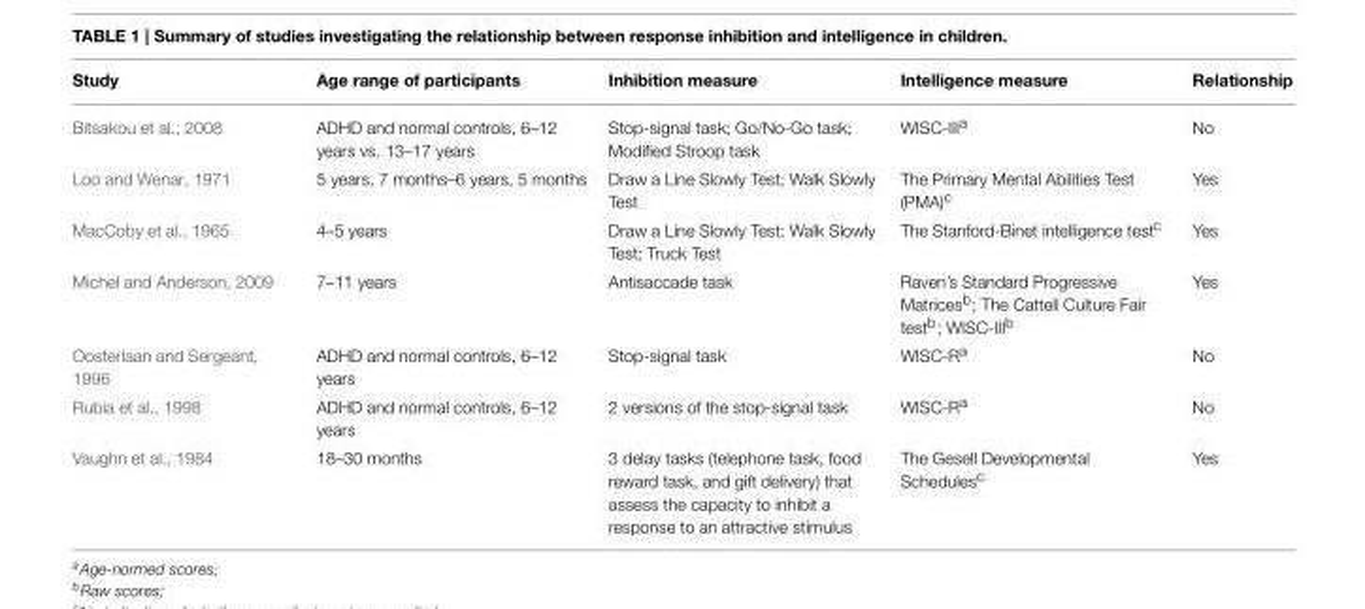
<table><thead><tr><td>Study</td><td>Age range of participants</td><td>Inhibition measure</td><td>Intelligence measure</td><td>Relationship</td></tr></thead><tbody><tr><td>Bitsakou et al., 2008</td><td>ADHD and normal controls, 6–12 years vs. 13–17 years</td><td>Stop-signal task; Go/No-Go task; Modified Stroop task</td><td>WISC-III<sup>a</sup></td><td>No</td></tr><tr><td>Loo and Wenar, 1971</td><td>5 years, 7 months–6 years, 5 months</td><td>Draw a Line Slowly Test; Walk Slowly Test</td><td>The Primary Mental Abilities Test (PMA)<sup>c</sup></td><td>Yes</td></tr><tr><td>MacCoby et al., 1965</td><td>4–5 years</td><td>Draw a Line Slowly Test; Walk Slowly Test; Truck Test</td><td>The Stanford-Binet intelligence test<sup>c</sup></td><td>Yes</td></tr><tr><td>Michel and Anderson, 2009</td><td>7–11 years</td><td>Antisaccade task</td><td>Raven’s Standard Progressive Matrices<sup>b</sup>; The Cattell Culture Fair test<sup>b</sup>; WISC-III<sup>b</sup></td><td>Yes</td></tr><tr><td>Oosterlaan and Sergeant, 1996</td><td>ADHD and normal controls, 6–12 years</td><td>Stop-signal task</td><td>WISC-R<sup>a</sup></td><td>No</td></tr><tr><td>Rubia et al., 1998</td><td>ADHD and normal controls, 6–12 years</td><td>2 versions of the stop-signal task</td><td>WISC-R<sup>a</sup></td><td>No</td></tr><tr><td>Vaughn et al., 1984</td><td>18–30 months</td><td>3 delay tasks (telephone task, food reward task, and gift delivery) that assess the capacity to inhibit a response to an attractive stimulus</td><td>The Gesell Developmental Schedules<sup>c</sup></td><td>Yes</td></tr></tbody></table>